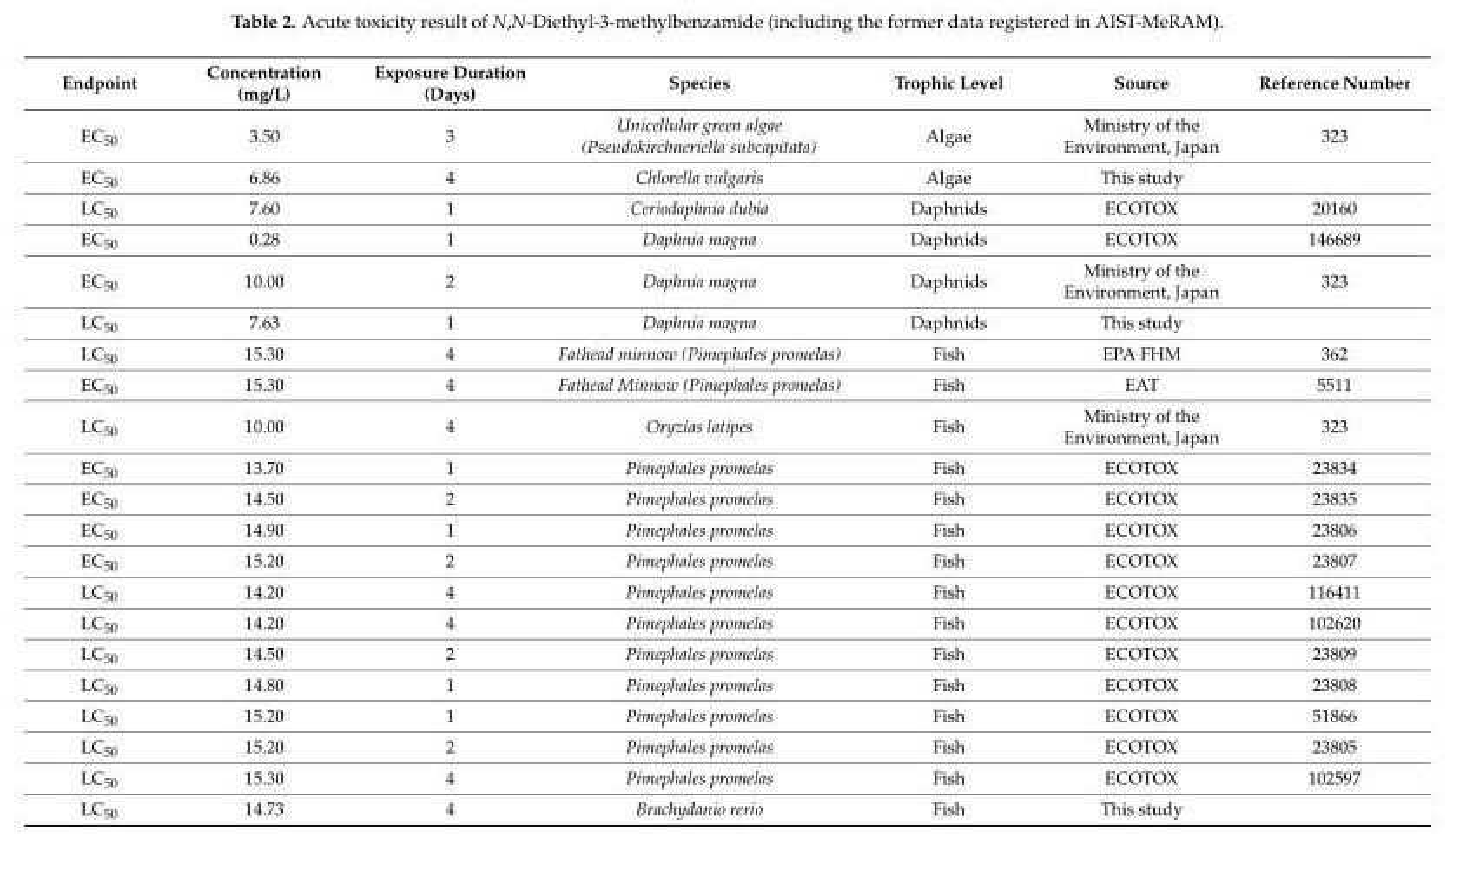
<table><thead><tr><td>Endpoint</td><td>Concentration (mg/L)</td><td>Exposure Duration (Days)</td><td>Species</td><td>Trophic Level</td><td>Source</td><td>Reference Number</td></tr></thead><tbody><tr><td>EC<sub>50</sub></td><td>3.50</td><td>3</td><td>Unicellular green algae (Pseudokirchneriella subcapitata)</td><td>Algae</td><td>Ministry of the Environment, Japan</td><td>323</td></tr><tr><td>EC<sub>50</sub></td><td>6.86</td><td>4</td><td>Chlorella vulgaris</td><td>Algae</td><td>This study</td><td></td></tr><tr><td>LC<sub>50</sub></td><td>7.60</td><td>1</td><td>Ceriodaphnia dubia</td><td>Daphnids</td><td>ECOTOX</td><td>20160</td></tr><tr><td>EC<sub>50</sub></td><td>0.28</td><td>1</td><td>Daphnia magna</td><td>Daphnids</td><td>ECOTOX</td><td>146689</td></tr><tr><td>EC<sub>50</sub></td><td>10.00</td><td>2</td><td>Daphnia magna</td><td>Daphnids</td><td>Ministry of the Environment, Japan</td><td>323</td></tr><tr><td>LC<sub>50</sub></td><td>7.63</td><td>1</td><td>Daphnia magna</td><td>Daphnids</td><td>This study</td><td></td></tr><tr><td>LC<sub>50</sub></td><td>15.30</td><td>4</td><td>Fathead minnow (Pimephales promelas)</td><td>Fish</td><td>EPA FHM</td><td>362</td></tr><tr><td>EC<sub>50</sub></td><td>15.30</td><td>4</td><td>Fathead Minnow (Pimephales promelas)</td><td>Fish</td><td>EAT</td><td>5511</td></tr><tr><td>LC<sub>50</sub></td><td>10.00</td><td>4</td><td>Oryzias latipes</td><td>Fish</td><td>Ministry of the Environment, Japan</td><td>323</td></tr><tr><td>EC<sub>50</sub></td><td>13.70</td><td>1</td><td>Pimephales promelas</td><td>Fish</td><td>ECOTOX</td><td>23834</td></tr><tr><td>EC<sub>50</sub></td><td>14.50</td><td>2</td><td>Pimephales promelas</td><td>Fish</td><td>ECOTOX</td><td>23835</td></tr><tr><td>EC<sub>50</sub></td><td>14.90</td><td>1</td><td>Pimephales promelas</td><td>Fish</td><td>ECOTOX</td><td>23806</td></tr><tr><td>EC<sub>50</sub></td><td>15.20</td><td>2</td><td>Pimephales promelas</td><td>Fish</td><td>ECOTOX</td><td>23807</td></tr><tr><td>LC<sub>50</sub></td><td>14.20</td><td>4</td><td>Pimephales promelas</td><td>Fish</td><td>ECOTOX</td><td>116411</td></tr><tr><td>LC<sub>50</sub></td><td>14.20</td><td>4</td><td>Pimephales promelas</td><td>Fish</td><td>ECOTOX</td><td>102620</td></tr><tr><td>LC<sub>50</sub></td><td>14.50</td><td>2</td><td>Pimephales promelas</td><td>Fish</td><td>ECOTOX</td><td>23809</td></tr><tr><td>LC<sub>50</sub></td><td>14.80</td><td>1</td><td>Pimephales promelas</td><td>Fish</td><td>ECOTOX</td><td>23808</td></tr><tr><td>LC<sub>50</sub></td><td>15.20</td><td>1</td><td>Pimephales promelas</td><td>Fish</td><td>ECOTOX</td><td>51866</td></tr><tr><td>LC<sub>50</sub></td><td>15.20</td><td>2</td><td>Pimephales promelas</td><td>Fish</td><td>ECOTOX</td><td>23805</td></tr><tr><td>LC<sub>50</sub></td><td>15.30</td><td>4</td><td>Pimephales promelas</td><td>Fish</td><td>ECOTOX</td><td>102597</td></tr><tr><td>LC<sub>50</sub></td><td>14.73</td><td>4</td><td>Brachydanio rerio</td><td>Fish</td><td>This study</td><td></td></tr></tbody></table>